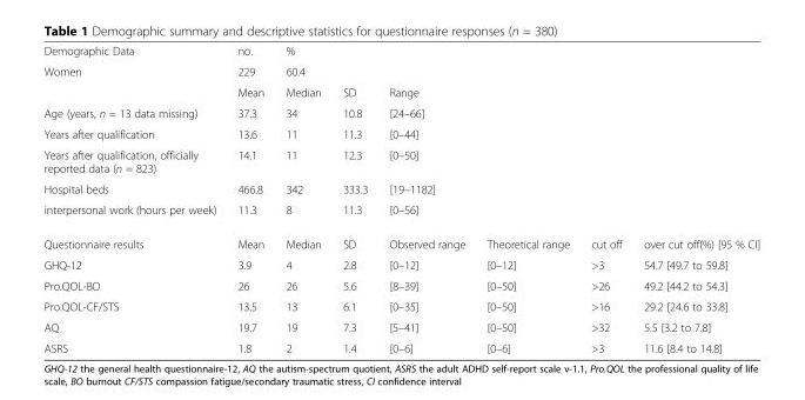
<table><tbody><tr><td>Demographic Data</td><td>no.</td><td>%</td><td></td><td></td><td></td><td></td><td></td></tr><tr><td rowspan="2">Women</td><td>229</td><td>60.4</td><td></td><td></td><td></td><td></td><td></td></tr><tr><td>Mean</td><td>Median</td><td>SD</td><td>Range</td><td></td><td></td><td></td></tr><tr><td>Age (years, n = 13 data missing)</td><td>37.3</td><td>34</td><td>10.8</td><td>[24–66]</td><td></td><td></td><td></td></tr><tr><td>Years after qualification</td><td>13.6</td><td>11</td><td>11.3</td><td>[0–44]</td><td></td><td></td><td></td></tr><tr><td>Years after qualification, officially reported data (n = 823)</td><td>14.1</td><td>11</td><td>12.3</td><td>[0–50]</td><td></td><td></td><td></td></tr><tr><td>Hospital beds</td><td>466.8</td><td>342</td><td>333.3</td><td>[19–1182]</td><td></td><td></td><td></td></tr><tr><td>interpersonal work (hours per week)</td><td>11.3</td><td>8</td><td>11.3</td><td>[0–56]</td><td></td><td></td><td></td></tr><tr><td>Questionnaire results</td><td>Mean</td><td>Median</td><td>SD</td><td>Observed range</td><td>Theoretical range</td><td>cut off</td><td>over cut off(%) [95 % CI]</td></tr><tr><td>GHQ-12</td><td>3.9</td><td>4</td><td>2.8</td><td>[0–12]</td><td>[0–12]</td><td>&gt;3</td><td>54.7 [49.7 to 59.8]</td></tr><tr><td>Pro.QOL-BO</td><td>26</td><td>26</td><td>5.6</td><td>[8–39]</td><td>[0–50]</td><td>&gt;26</td><td>49.2 [44.2 to 54.3]</td></tr><tr><td>Pro.QOL-CF/STS</td><td>13.5</td><td>13</td><td>6.1</td><td>[0–35]</td><td>[0–50]</td><td>&gt;16</td><td>29.2 [24.6 to 33.8]</td></tr><tr><td>AQ</td><td>19.7</td><td>19</td><td>7.3</td><td>[5–41]</td><td>[0–50]</td><td>&gt;32</td><td>5.5 [3.2 to 7.8]</td></tr><tr><td>ASRS</td><td>1.8</td><td>2</td><td>1.4</td><td>[0–6]</td><td>[0–6]</td><td>&gt;3</td><td>11.6 [8.4 to 14.8]</td></tr></tbody></table>